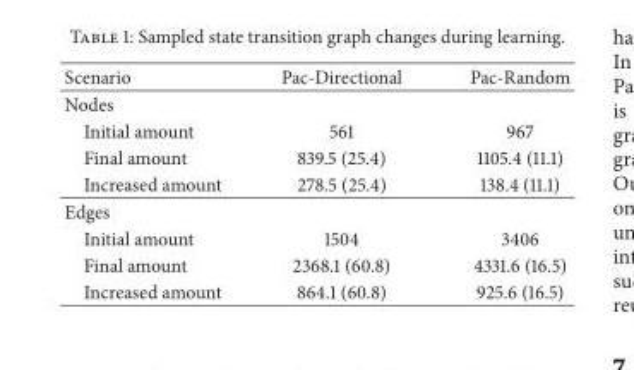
<table><thead><tr><td>Scenario</td><td>Pac-Directional</td><td>Pac-Random</td></tr></thead><tbody><tr><td colspan="3">Nodes</td></tr><tr><td>Initial amount</td><td>561</td><td>967</td></tr><tr><td>Final amount</td><td>839.5 (25.4)</td><td>1105.4 (11.1)</td></tr><tr><td>Increased amount</td><td>278.5 (25.4)</td><td>138.4 (11.1)</td></tr><tr><td colspan="3">Edges</td></tr><tr><td>Initial amount</td><td>1504</td><td>3406</td></tr><tr><td>Final amount</td><td>2368.1 (60.8)</td><td>4331.6 (16.5)</td></tr><tr><td>Increased amount</td><td>864.1 (60.8)</td><td>925.6 (16.5)</td></tr></tbody></table>